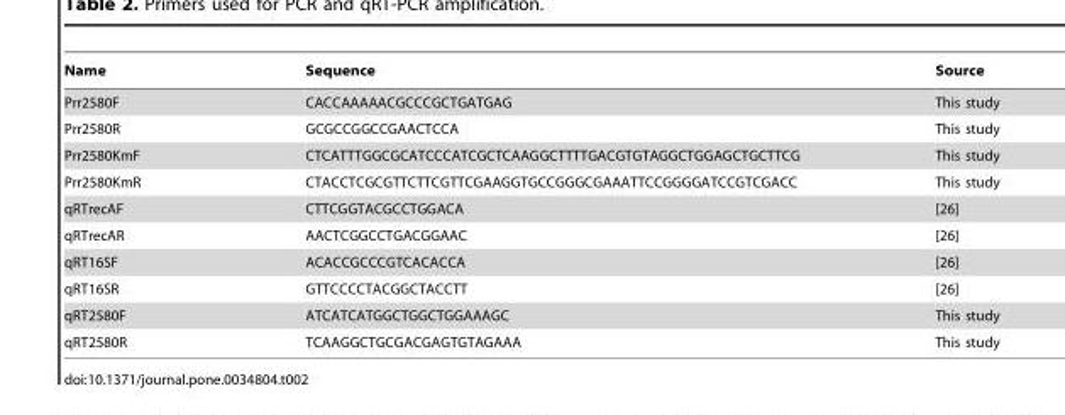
<table><thead><tr><td>Name</td><td>Sequence</td><td>Source</td></tr></thead><tbody><tr><td>Prr2580F</td><td>CACCAAAAACGCCCGCTGATGAG</td><td>This study</td></tr><tr><td>Prr2580R</td><td>GCGCCGGCCGAACTCCA</td><td>This study</td></tr><tr><td>Prr2580KmF</td><td>CTCATTTGGCGCATCCCATCGCTCAAGGCTTTTGACGTGTAGGCTGGAGCTGCTTCG</td><td>This study</td></tr><tr><td>Prr2580KmR</td><td>CTACCTCGCGTTCTTCGTTCGAAGGTGCCGGGCGAAATTCCGGGGATCCGTCGACC</td><td>This study</td></tr><tr><td>qRTrecAF</td><td>CTTCGGTACGCCTGGACA</td><td>[26]</td></tr><tr><td>qRTrecAR</td><td>AACTCGGCCTGACGGAAC</td><td>[26]</td></tr><tr><td>qRT16SF</td><td>ACACCGCCCGTCACACCA</td><td>[26]</td></tr><tr><td>qRT16SR</td><td>GTTCCCCTACGGCTACCTT</td><td>[26]</td></tr><tr><td>qRT2580F</td><td>ATCATCATGGCTGGCTGGAAAGC</td><td>This study</td></tr><tr><td>qRT2580R</td><td>TCAAGGCTGCGACGAGTGTAGAAA</td><td>This study</td></tr></tbody></table>